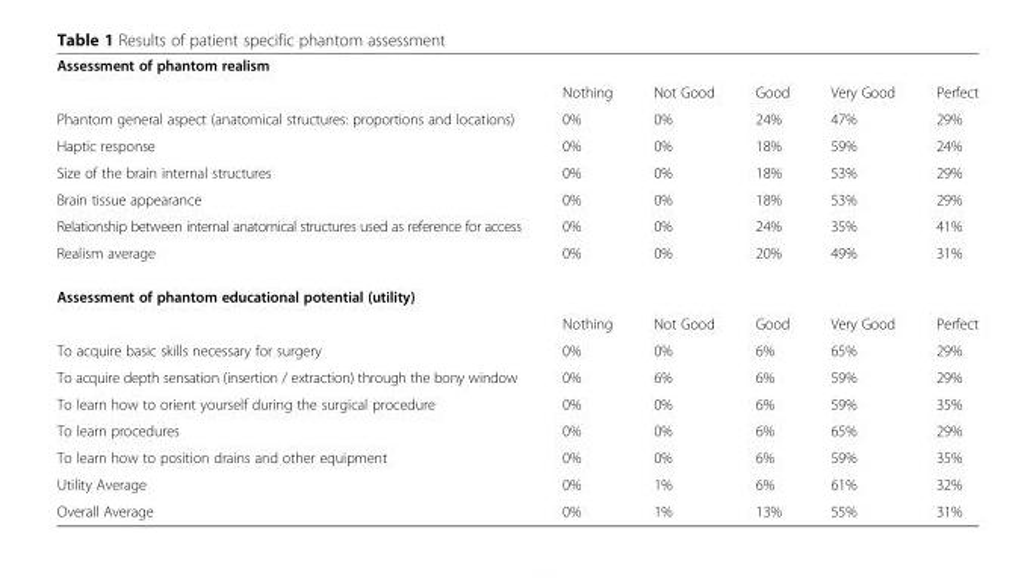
<table><tbody><tr><td colspan="6">Assessment of phantom realism</td></tr><tr><td></td><td>Nothing</td><td>Not Good</td><td>Good</td><td>Very Good</td><td>Perfect</td></tr><tr><td>Phantom general aspect (anatomical structures: proportions and locations)</td><td>0%</td><td>0%</td><td>24%</td><td>47%</td><td>29%</td></tr><tr><td>Haptic response</td><td>0%</td><td>0%</td><td>18%</td><td>59%</td><td>24%</td></tr><tr><td>Size of the brain internal structures</td><td>0%</td><td>0%</td><td>18%</td><td>53%</td><td>29%</td></tr><tr><td>Brain tissue appearance</td><td>0%</td><td>0%</td><td>18%</td><td>53%</td><td>29%</td></tr><tr><td>Relationship between internal anatomical structures used as reference for access</td><td>0%</td><td>0%</td><td>24%</td><td>35%</td><td>41%</td></tr><tr><td>Realism average</td><td>0%</td><td>0%</td><td>20%</td><td>49%</td><td>31%</td></tr><tr><td colspan="6">Assessment of phantom educational potential (utility)</td></tr><tr><td></td><td>Nothing</td><td>Not Good</td><td>Good</td><td>Very Good</td><td>Perfect</td></tr><tr><td>To acquire basic skills necessary for surgery</td><td>0%</td><td>0%</td><td>6%</td><td>65%</td><td>29%</td></tr><tr><td>To acquire depth sensation (insertion / extraction) through the bony window</td><td>0%</td><td>6%</td><td>6%</td><td>59%</td><td>29%</td></tr><tr><td>To learn how to orient yourself during the surgical procedure</td><td>0%</td><td>0%</td><td>6%</td><td>59%</td><td>35%</td></tr><tr><td>To learn procedures</td><td>0%</td><td>0%</td><td>6%</td><td>65%</td><td>29%</td></tr><tr><td>To learn how to position drains and other equipment</td><td>0%</td><td>0%</td><td>6%</td><td>59%</td><td>35%</td></tr><tr><td>Utility Average</td><td>0%</td><td>1%</td><td>6%</td><td>61%</td><td>32%</td></tr><tr><td>Overall Average</td><td>0%</td><td>1%</td><td>13%</td><td>55%</td><td>31%</td></tr></tbody></table>